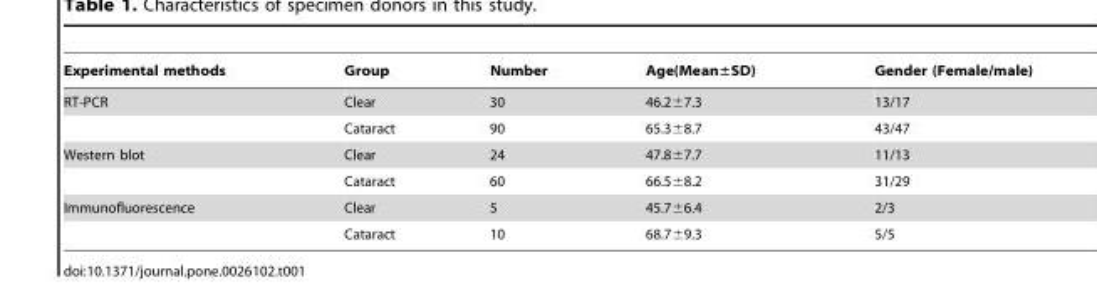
<table><thead><tr><td>Experimental methods</td><td>Group</td><td>Number</td><td>Age(Mean±SD)</td><td>Gender (Female/male)</td></tr></thead><tbody><tr><td rowspan="2">RT-PCR</td><td>Clear</td><td>30</td><td>46.2±7.3</td><td>13/17</td></tr><tr><td>Cataract</td><td>90</td><td>65.3±8.7</td><td>43/47</td></tr><tr><td rowspan="2">Western blot</td><td>Clear</td><td>24</td><td>47.8±7.7</td><td>11/13</td></tr><tr><td>Cataract</td><td>60</td><td>66.5±8.2</td><td>31/29</td></tr><tr><td rowspan="2">Immunofluorescence</td><td>Clear</td><td>5</td><td>45.7±6.4</td><td>2/3</td></tr><tr><td>Cataract</td><td>10</td><td>68.7±9.3</td><td>5/5</td></tr></tbody></table>